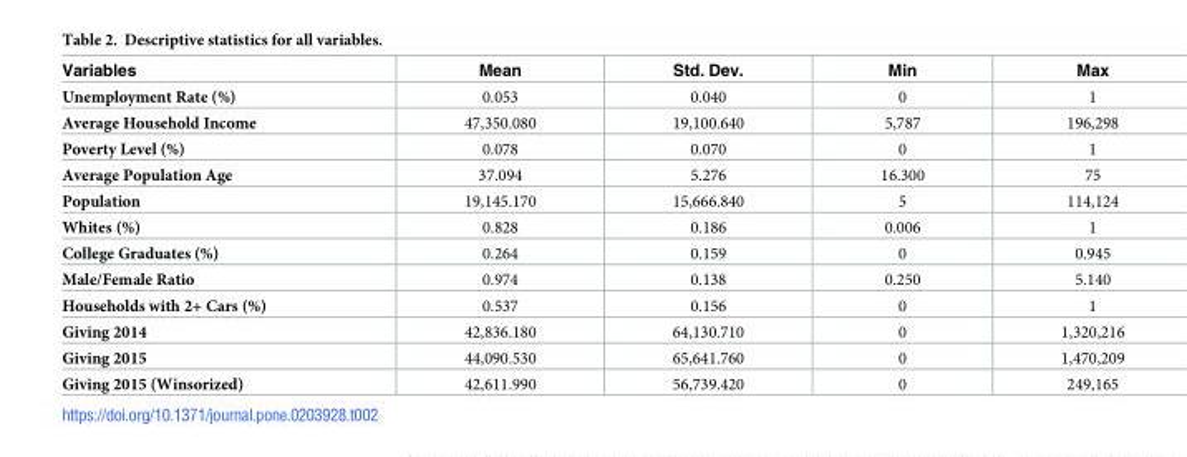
<table><thead><tr><td>Variables</td><td>Mean</td><td>Std. Dev.</td><td>Min</td><td>Max</td></tr></thead><tbody><tr><td>Unemployment Rate (%)</td><td>0.053</td><td>0.040</td><td>0</td><td>1</td></tr><tr><td>Average Household Income</td><td>47,350.080</td><td>19,100.640</td><td>5,787</td><td>196,298</td></tr><tr><td>Poverty Level (%)</td><td>0.078</td><td>0.070</td><td>0</td><td>1</td></tr><tr><td>Average Population Age</td><td>37.094</td><td>5.276</td><td>16.300</td><td>75</td></tr><tr><td>Population</td><td>19,145.170</td><td>15,666.840</td><td>5</td><td>114,124</td></tr><tr><td>Whites (%)</td><td>0.828</td><td>0.186</td><td>0.006</td><td>1</td></tr><tr><td>College Graduates (%)</td><td>0.264</td><td>0.159</td><td>0</td><td>0.945</td></tr><tr><td>Male/Female Ratio</td><td>0.974</td><td>0.138</td><td>0.250</td><td>5.140</td></tr><tr><td>Households with 2+ Cars (%)</td><td>0.537</td><td>0.156</td><td>0</td><td>1</td></tr><tr><td>Giving 2014</td><td>42,836.180</td><td>64,130.710</td><td>0</td><td>1,320,216</td></tr><tr><td>Giving 2015</td><td>44,090.530</td><td>65,641.760</td><td>0</td><td>1,470,209</td></tr><tr><td>Giving 2015 (Winsorized)</td><td>42,611.990</td><td>56,739.420</td><td>0</td><td>249,165</td></tr></tbody></table>